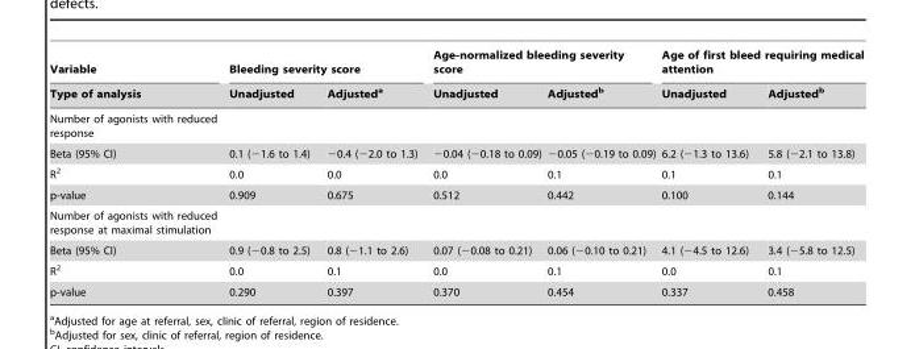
<table><thead><tr><td rowspan="2">Variable Type of analysis</td><td colspan="2">Bleeding severity score</td><td colspan="2">Age-normalized bleeding severity score</td><td colspan="2">Age of first bleed requiring medical attention</td></tr><tr><td>Unadjusted</td><td>Adjusted<sup>a</sup></td><td>Unadjusted</td><td>Adjusted<sup>b</sup></td><td>Unadjusted</td><td>Adjusted<sup>b</sup></td></tr></thead><tbody><tr><td colspan="7">Number of agonists with reduced response</td></tr><tr><td>Beta (95% CI)</td><td>0.1 (−1.6 to 1.4)</td><td>−0.4 (−2.0 to 1.3)</td><td>−0.04 (−0.18 to 0.09)</td><td>−0.05 (−0.19 to 0.09)</td><td>6.2 (−1.3 to 13.6)</td><td>5.8 (−2.1 to 13.8)</td></tr><tr><td>R<sup>2</sup></td><td>0.0</td><td>0.0</td><td>0.0</td><td>0.1</td><td>0.1</td><td>0.1</td></tr><tr><td>p-value</td><td>0.909</td><td>0.675</td><td>0.512</td><td>0.442</td><td>0.100</td><td>0.144</td></tr><tr><td colspan="7">Number of agonists with reduced response at maximal stimulation</td></tr><tr><td>Beta (95% CI)</td><td>0.9 (−0.8 to 2.5)</td><td>0.8 (−1.1 to 2.6)</td><td>0.07 (−0.08 to 0.21)</td><td>0.06 (−0.10 to 0.21)</td><td>4.1 (−4.5 to 12.6)</td><td>3.4 (−5.8 to 12.5)</td></tr><tr><td>R<sup>2</sup></td><td>0.0</td><td>0.1</td><td>0.0</td><td>0.1</td><td>0.0</td><td>0.1</td></tr><tr><td>p-value</td><td>0.290</td><td>0.397</td><td>0.370</td><td>0.454</td><td>0.337</td><td>0.458</td></tr></tbody></table>